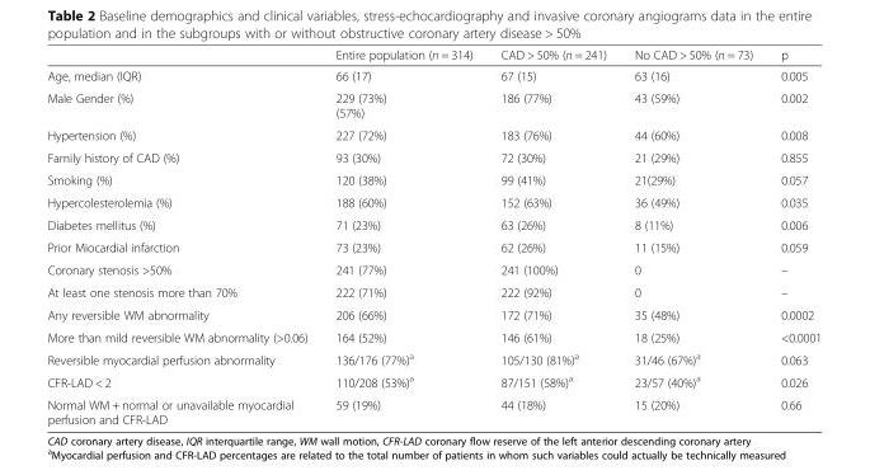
<table><thead><tr><td></td><td>Entire population (n = 314)</td><td>CAD &gt; 50% (n = 241)</td><td>No CAD &gt; 50% (n = 73)</td><td>p</td></tr></thead><tbody><tr><td>Age, median (IQR)</td><td>66 (17)</td><td>67 (15)</td><td>63 (16)</td><td>0.005</td></tr><tr><td>Male Gender (%)</td><td>229 (73%) (57%)</td><td>186 (77%)</td><td>43 (59%)</td><td>0.002</td></tr><tr><td>Hypertension (%)</td><td>227 (72%)</td><td>183 (76%)</td><td>44 (60%)</td><td>0.008</td></tr><tr><td>Family history of CAD (%)</td><td>93 (30%)</td><td>72 (30%)</td><td>21 (29%)</td><td>0.855</td></tr><tr><td>Smoking (%)</td><td>120 (38%)</td><td>99 (41%)</td><td>21(29%)</td><td>0.057</td></tr><tr><td>Hypercolesterolemia (%)</td><td>188 (60%)</td><td>152 (63%)</td><td>36 (49%)</td><td>0.035</td></tr><tr><td>Diabetes mellitus (%)</td><td>71 (23%)</td><td>63 (26%)</td><td>8 (11%)</td><td>0.006</td></tr><tr><td>Prior Miocardial infarction</td><td>73 (23%)</td><td>62 (26%)</td><td>11 (15%)</td><td>0.059</td></tr><tr><td>Coronary stenosis &gt;50%</td><td>241 (77%)</td><td>241 (100%)</td><td>0</td><td>–</td></tr><tr><td>At least one stenosis more than 70%</td><td>222 (71%)</td><td>222 (92%)</td><td>0</td><td>–</td></tr><tr><td>Any reversible WM abnormality</td><td>206 (66%)</td><td>172 (71%)</td><td>35 (48%)</td><td>0.0002</td></tr><tr><td>More than mild reversible WM abnormality (&gt;0.06)</td><td>164 (52%)</td><td>146 (61%)</td><td>18 (25%)</td><td>&lt;0.0001</td></tr><tr><td>Reversible myocardial perfusion abnormality</td><td>136/176 (77%)<sup>a</sup></td><td>105/130 (81%)<sup>a</sup></td><td>31/46 (67%)<sup>a</sup></td><td>0.063</td></tr><tr><td>CFR-LAD &lt; 2</td><td>110/208 (53%)<sup>a</sup></td><td>87/151 (58%)<sup>a</sup></td><td>23/57 (40%)<sup>a</sup></td><td>0.026</td></tr><tr><td>Normal WM + normal or unavailable myocardial perfusion and CFR-LAD</td><td>59 (19%)</td><td>44 (18%)</td><td>15 (20%)</td><td>0.66</td></tr></tbody></table>